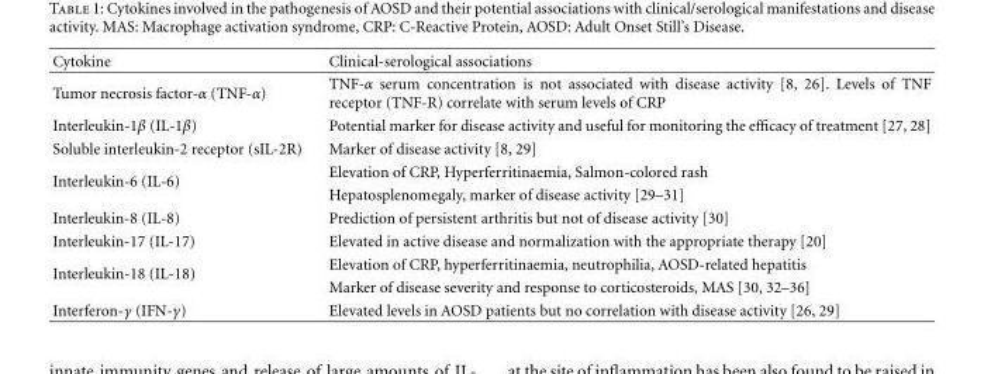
<table><thead><tr><td>Cytokine</td><td>Clinical-serological associations</td></tr></thead><tbody><tr><td>Tumor necrosis factor-α (TNF-α)</td><td>TNF-α serum concentration is not associated with disease activity [8, 26]. Levels of TNF receptor (TNF-R) correlate with serum levels of CRP</td></tr><tr><td>Interleukin-1β (IL-1β)</td><td>Potential marker for disease activity and useful for monitoring the efficacy of treatment [27, 28]</td></tr><tr><td>Soluble interleukin-2 receptor (sIL-2R)</td><td>Marker of disease activity [8, 29]</td></tr><tr><td rowspan="2">Interleukin-6 (IL-6)</td><td>Elevation of CRP, Hyperferritinaemia, Salmon-colored rash</td></tr><tr><td>Hepatosplenomegaly, marker of disease activity [29–31]</td></tr><tr><td>Interleukin-8 (IL-8)</td><td>Prediction of persistent arthritis but not of disease activity [30]</td></tr><tr><td>Interleukin-17 (IL-17)</td><td>Elevated in active disease and normalization with the appropriate therapy [20]</td></tr><tr><td rowspan="2">Interleukin-18 (IL-18)</td><td>Elevation of CRP, hyperferritinaemia, neutrophilia, AOSD-related hepatitis</td></tr><tr><td>Marker of disease severity and response to corticosteroids, MAS [30, 32–36]</td></tr><tr><td>Interferon-γ (IFN-γ)</td><td>Elevated levels in AOSD patients but no correlation with disease activity [26, 29]</td></tr></tbody></table>